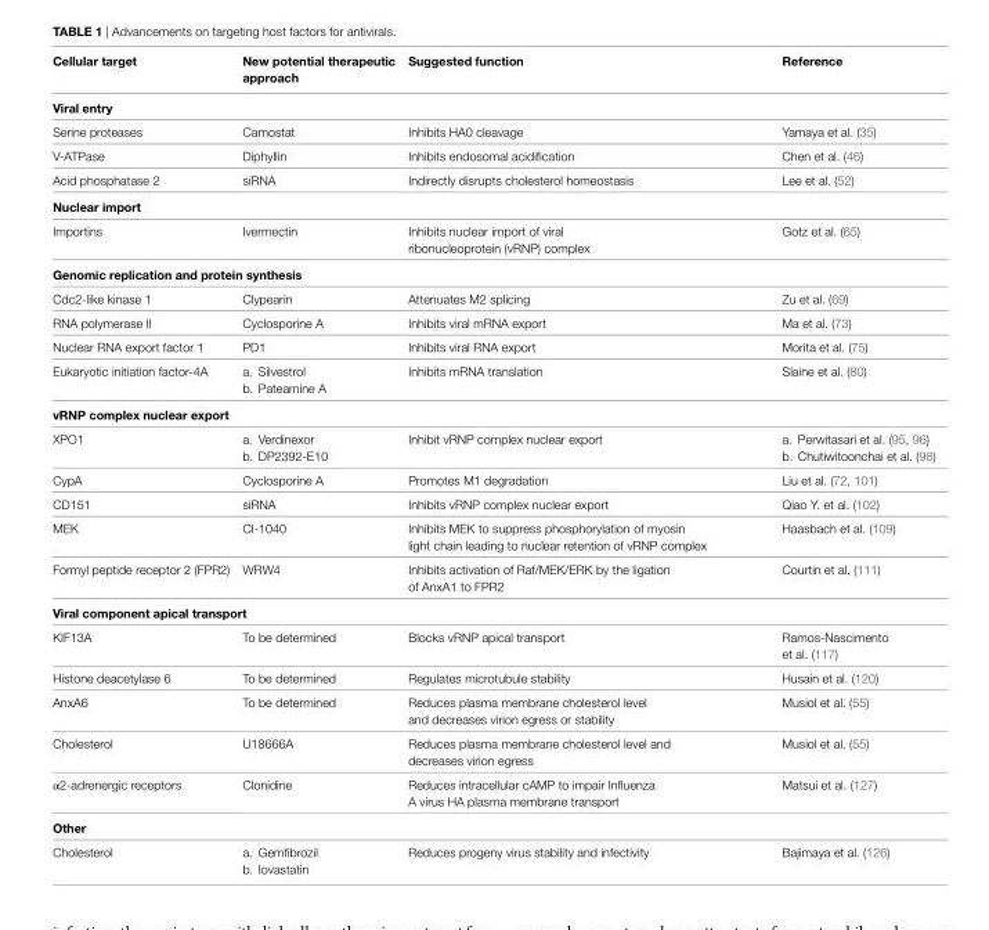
<table><thead><tr><td>Cellular target</td><td>New potential therapeutic approach</td><td>Suggested function</td><td>Reference</td></tr></thead><tbody><tr><td colspan="4">viral entry</td></tr><tr><td>Serine proteases</td><td>Camostat</td><td>Inhibits HA0 cleavage</td><td>Yamaya et al. (35)</td></tr><tr><td>V-ATPase</td><td>Diphyllin</td><td>Inhibits endosomal acidification</td><td>Chen et al. (46)</td></tr><tr><td>Acid phosphatase 2</td><td>siRNA</td><td>Indirectly disrupts cholesterol homeostasis</td><td>Lee et al. (52)</td></tr><tr><td colspan="4">Nuclear import</td></tr><tr><td>Importins</td><td>Ivermectin</td><td>Inhibits nuclear import of viral ribonucleoprotein (vRNP) complex</td><td>Gotz et al. (65)</td></tr><tr><td colspan="4">Genomic replication and protein synthesis</td></tr><tr><td>Cdc2-like kinase 1</td><td>Clypearin</td><td>Attenuates M2 splicing</td><td>Zu et al. (69)</td></tr><tr><td>RNA polymerase II</td><td>Cyclosporine A</td><td>Inhibits viral mRNA export</td><td>Ma et al. (73)</td></tr><tr><td>Nuclear RNA export factor 1</td><td>PD1</td><td>Inhibits viral RNA export</td><td>Morita et al. (75)</td></tr><tr><td>Eukaryotic initiation factor-4A</td><td>a. Silvestrol b. Pateamine A</td><td>Inhibits mRNA translation</td><td>Slaine et al. (80)</td></tr><tr><td colspan="4">vRNP complex nuclear export</td></tr><tr><td>XPO1</td><td>a. Verdinexor b. DP2392-E10</td><td>Inhibit vRNP complex nuclear export</td><td>a. Perwitasari et al. (95, 96) b. Chutiwitoonchai et al. (98)</td></tr><tr><td>CypA</td><td>Cyclosporine A</td><td>Promotes M1 degradation</td><td>Liu et al. (72, 101)</td></tr><tr><td>CD151</td><td>siRNA</td><td>Inhibits vRNP complex nuclear export</td><td>Qiao Y. et al. (102)</td></tr><tr><td>MEK</td><td>CI-1040</td><td>Inhibits MEK to suppress phosphorylation of myosin light chain leading to nuclear retention of vRNP complex</td><td>Haasbach et al. (109)</td></tr><tr><td>Formyl peptide receptor 2 (FPR2)</td><td>WRW4</td><td>Inhibits activation of Raf/MEK/ERK by the ligation of AnxA1 to FPR2</td><td>Courtin et al. (111)</td></tr><tr><td colspan="4">viral component apical transport</td></tr><tr><td>KIF13A</td><td>To be determined</td><td>Blocks vRNP apical transport</td><td>Ramos-Nascimento et al. (117)</td></tr><tr><td>Histone deacetylase 6</td><td>To be determined</td><td>Regulates microtubule stability</td><td>Husain et al. (120)</td></tr><tr><td>AnxA6</td><td>To be determined</td><td>Reduces plasma membrane cholesterol level and decreases virion egress or stability</td><td>Musiol et al. (55)</td></tr><tr><td>Cholesterol</td><td>U18666A</td><td>Reduces plasma membrane cholesterol level and decreases virion egress</td><td>Musiol et al. (55)</td></tr><tr><td>α2-adrenergic receptors</td><td>Clonidine</td><td>Reduces intracellular cAMP to impair Influenza A virus HA plasma membrane transport</td><td>Matsui et al. (127)</td></tr><tr><td colspan="4">Other</td></tr><tr><td>Cholesterol</td><td>a. Gemfibrozil b. Iovastatin</td><td>Reduces progeny virus stability and infectivity</td><td>Bajimaya et al. (126)</td></tr></tbody></table>